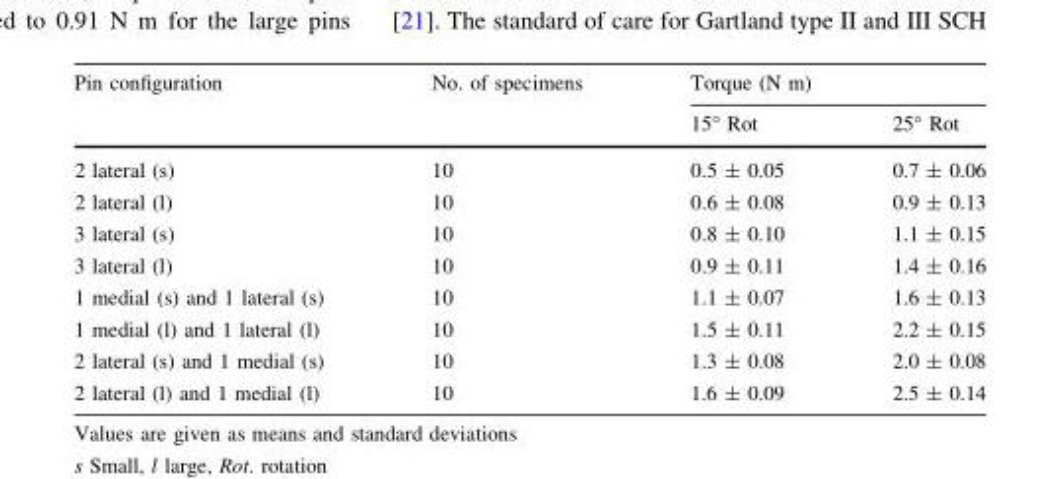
<table><thead><tr><td rowspan="2">Pin configuration</td><td rowspan="2">No. of specimens</td><td colspan="2">Torque (N m)</td></tr><tr><td>15° Rot</td><td>25° Rot</td></tr></thead><tbody><tr><td>2 lateral (s)</td><td>10</td><td>0.5 ± 0.05</td><td>0.7 ± 0.06</td></tr><tr><td>2 lateral (l)</td><td>10</td><td>0.6 ± 0.08</td><td>0.9 ± 0.13</td></tr><tr><td>3 lateral (s)</td><td>10</td><td>0.8 ± 0.10</td><td>1.1 ± 0.15</td></tr><tr><td>3 lateral (l)</td><td>10</td><td>0.9 ± 0.11</td><td>1.4 ± 0.16</td></tr><tr><td>1 medial (s) and 1 lateral (s)</td><td>10</td><td>1.1 ± 0.07</td><td>1.6 ± 0.13</td></tr><tr><td>1 medial (l) and 1 lateral (l)</td><td>10</td><td>1.5 ± 0.11</td><td>2.2 ± 0.15</td></tr><tr><td>2 lateral (s) and 1 medial (s)</td><td>10</td><td>1.3 ± 0.08</td><td>2.0 ± 0.08</td></tr><tr><td>2 lateral (l) and 1 medial (l)</td><td>10</td><td>1.6 ± 0.09</td><td>2.5 ± 0.14</td></tr></tbody></table>